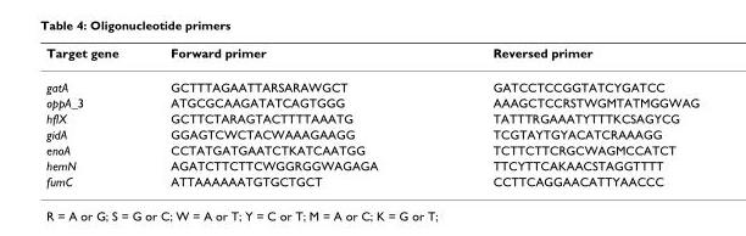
<table><thead><tr><td>Target gene</td><td>Forward primer</td><td>Reversed primer</td></tr></thead><tbody><tr><td>gatA</td><td>GCTTTAGAATTARSARAWGCT</td><td>GATCCTCCGGTATCYGATCC</td></tr><tr><td>oppA_3</td><td>ATGCGCAAGATATCAGTGGG</td><td>AAAGCTCCRSTWGMTATMGGWAG</td></tr><tr><td>hflX</td><td>GCTTCTARAGTACTTTTAAATG</td><td>TATTTRGAAATYTTTKCSAGYCG</td></tr><tr><td>gidA</td><td>GGAGTCWCTACWAAAGAAGG</td><td>TCGTAYTGYACATCRAAAGG</td></tr><tr><td>enoA</td><td>CCTATGATGAATCTKATCAATGG</td><td>TCTTCTTCRGCWAGMCCATCT</td></tr><tr><td>hemN</td><td>AGATCTTCTTCWGGRGGWAGAGA</td><td>TTCYTTCAKAACSTAGGTTTT</td></tr><tr><td>fumC</td><td>ATTAAAAAATGTGCTGCT</td><td>CCTTCAGGAACATTYAACCC</td></tr></tbody></table>